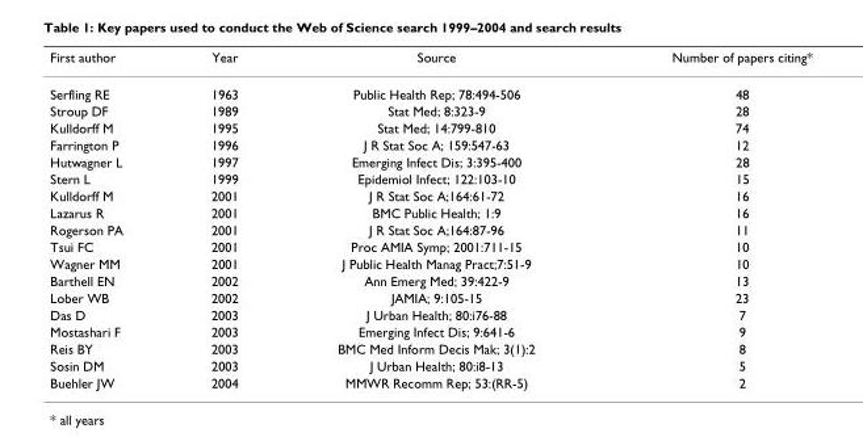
<table><thead><tr><td>First author</td><td>Year</td><td>Source</td><td>Number of papers citing*</td></tr></thead><tbody><tr><td>Serfling RE</td><td>1963</td><td>Public Health Rep; 78:494-506</td><td>48</td></tr><tr><td>Stroup DF</td><td>1989</td><td>Stat Med; 8:323-9</td><td>28</td></tr><tr><td>Kulldorff M</td><td>1995</td><td>Stat Med; 14:799-810</td><td>74</td></tr><tr><td>Farrington P</td><td>1996</td><td>J R Stat Soc A; 159:547-63</td><td>12</td></tr><tr><td>Hutwagner L</td><td>1997</td><td>Emerging Infect Dis; 3:395-400</td><td>28</td></tr><tr><td>Stern L</td><td>1999</td><td>Epidemiol Infect; 122:103-10</td><td>15</td></tr><tr><td>Kulldorff M</td><td>2001</td><td>J R Stat Soc A;164:61-72</td><td>16</td></tr><tr><td>Lazarus R</td><td>2001</td><td>BMC Public Health; 1:9</td><td>16</td></tr><tr><td>Rogerson PA</td><td>2001</td><td>J R Stat Soc A;164:87-96</td><td>11</td></tr><tr><td>Tsui FC</td><td>2001</td><td>Proc AMIA Symp; 2001:711-15</td><td>10</td></tr><tr><td>Wagner MM</td><td>2001</td><td>J Public Health Manag Pract;7:51-9</td><td>10</td></tr><tr><td>Barthell EN</td><td>2002</td><td>Ann Emerg Med; 39:422-9</td><td>13</td></tr><tr><td>Lober WB</td><td>2002</td><td>JAMIA; 9:105-15</td><td>23</td></tr><tr><td>Das D</td><td>2003</td><td>J Urban Health; 80:i76-88</td><td>7</td></tr><tr><td>Mostashari F</td><td>2003</td><td>Emerging Infect Dis; 9:641-6</td><td>9</td></tr><tr><td>Reis BY</td><td>2003</td><td>BMC Med Inform Decis Mak; 3(1):2</td><td>8</td></tr><tr><td>Sosin DM</td><td>2003</td><td>J Urban Health; 80:i8-13</td><td>5</td></tr><tr><td>Buehler JW</td><td>2004</td><td>MMWR Recomm Rep; 53:(RR-5)</td><td>2</td></tr></tbody></table>